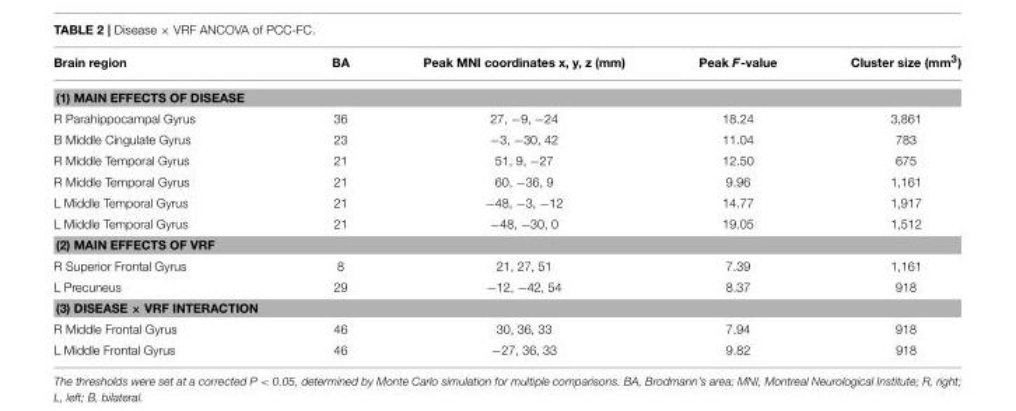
<table><thead><tr><td>Brain region</td><td>BA</td><td>Peak MNI coordinates x, y, z (mm)</td><td>Peak F-value</td><td>Cluster size (mm<sup>3</sup>)</td></tr></thead><tbody><tr><td colspan="5">(1) MAIN EFFECTS OF DISEASE</td></tr><tr><td>R Parahippocampal Gyrus</td><td>36</td><td>27, −9, −24</td><td>18.24</td><td>3,861</td></tr><tr><td>B Middle Cingulate Gyrus</td><td>23</td><td>−3, −30, 42</td><td>11.04</td><td>783</td></tr><tr><td>R Middle Temporal Gyrus</td><td>21</td><td>51, 9, −27</td><td>12.50</td><td>675</td></tr><tr><td>R Middle Temporal Gyrus</td><td>21</td><td>60, −36, 9</td><td>9.96</td><td>1,161</td></tr><tr><td>L Middle Temporal Gyrus</td><td>21</td><td>−48, −3, −12</td><td>14.77</td><td>1,917</td></tr><tr><td>L Middle Temporal Gyrus</td><td>21</td><td>−48, −30, 0</td><td>19.05</td><td>1,512</td></tr><tr><td colspan="5">(2) MAIN EFFECTS OF VRF</td></tr><tr><td>R Superior Frontal Gyrus</td><td>8</td><td>21, 27, 51</td><td>7.39</td><td>1,161</td></tr><tr><td>L Precuneus</td><td>29</td><td>−12, −42, 54</td><td>8.37</td><td>918</td></tr><tr><td colspan="5">(3) DISEASE × VRF INTERACTION</td></tr><tr><td>R Middle Frontal Gyrus</td><td>46</td><td>30, 36, 33</td><td>7.94</td><td>918</td></tr><tr><td>L Middle Frontal Gyrus</td><td>46</td><td>−27, 36, 33</td><td>9.82</td><td>918</td></tr></tbody></table>